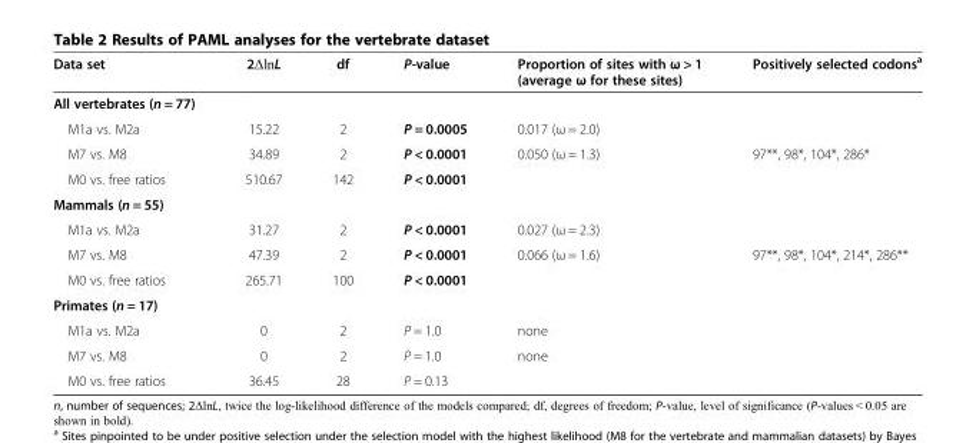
<table><thead><tr><td>Data set</td><td>2ΔlnL</td><td>df</td><td>P-value</td><td>Proportion of sites with ω &gt; 1 (average ω for these sites)</td><td>Positively selected codons<sup>a</sup></td></tr></thead><tbody><tr><td colspan="6">All vertebrates (n = 77)</td></tr><tr><td>M1a vs. M2a</td><td>15.22</td><td>2</td><td>P = 0.0005</td><td>0.017 (ω = 2.0)</td><td></td></tr><tr><td>M7 vs. M8</td><td>34.89</td><td>2</td><td>P &lt; 0.0001</td><td>0.050 (ω = 1.3)</td><td>97**, 98*, 104*, 286*</td></tr><tr><td>M0 vs. free ratios</td><td>510.67</td><td>142</td><td>P &lt; 0.0001</td><td></td><td></td></tr><tr><td colspan="6">Mammals (n = 55)</td></tr><tr><td>M1a vs. M2a</td><td>31.27</td><td>2</td><td>P &lt; 0.0001</td><td>0.027 (ω = 2.3)</td><td></td></tr><tr><td>M7 vs. M8</td><td>47.39</td><td>2</td><td>P &lt; 0.0001</td><td>0.066 (ω = 1.6)</td><td>97**, 98*, 104*, 214*, 286**</td></tr><tr><td>M0 vs. free ratios</td><td>265.71</td><td>100</td><td>P &lt; 0.0001</td><td></td><td></td></tr><tr><td colspan="6">Primates (n = 17)</td></tr><tr><td>M1a vs. M2a</td><td>0</td><td>2</td><td>P = 1.0</td><td>none</td><td></td></tr><tr><td>M7 vs. M8</td><td>0</td><td>2</td><td>P = 1.0</td><td>none</td><td></td></tr><tr><td>M0 vs. free ratios</td><td>36.45</td><td>28</td><td>P = 0.13</td><td></td><td></td></tr></tbody></table>